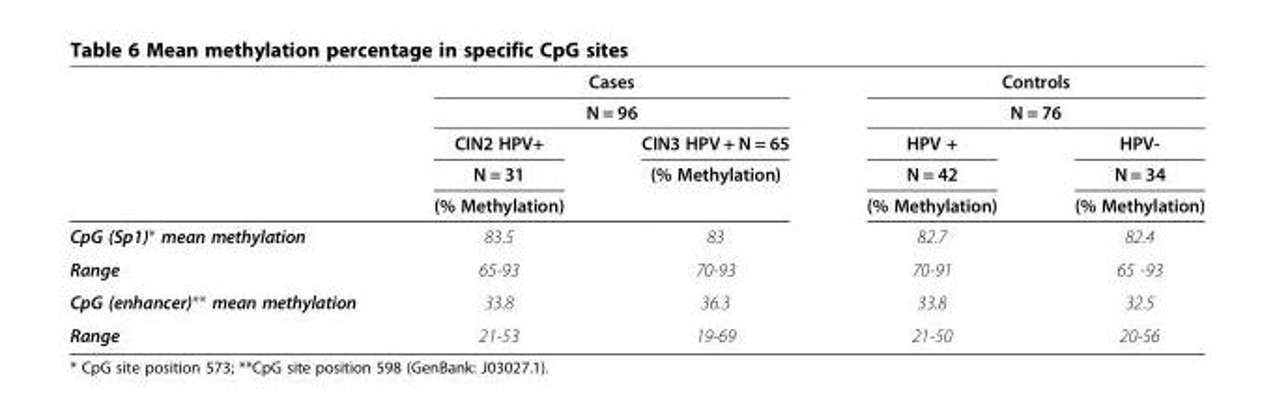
<table><thead><tr><td rowspan="5"></td><td rowspan="2" colspan="2">Cases N = 96</td><td rowspan="2" colspan="2">Controls N = 76</td></tr><tr></tr><tr><td rowspan="3">CIN2 HPV+ N = 31 (% Methylation)</td><td rowspan="3">CIN3 HPV + N = 65 (% Methylation)</td><td rowspan="3">HPV + N = 42 (% Methylation)</td><td rowspan="3">HPV- N = 34 (% Methylation)</td></tr><tr></tr><tr></tr></thead><tbody><tr><td>CpG (Sp1)* mean methylation</td><td>83.5</td><td>83</td><td>82.7</td><td>82.4</td></tr><tr><td>Range</td><td>65-93</td><td>70-93</td><td>70-91</td><td>65 -93</td></tr><tr><td>CpG (enhancer)** mean methylation</td><td>33.8</td><td>36.3</td><td>33.8</td><td>32.5</td></tr><tr><td>Range</td><td>21-53</td><td>19-69</td><td>21-50</td><td>20-56</td></tr></tbody></table>